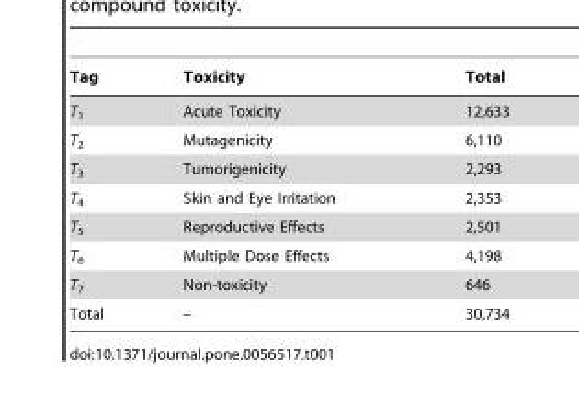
<table><thead><tr><td>Tag</td><td>Toxicity</td><td>Total</td></tr></thead><tbody><tr><td>T<sub>1</sub></td><td>Acute Toxicity</td><td>12,633</td></tr><tr><td>T<sub>2</sub></td><td>Mutagenicity</td><td>6,110</td></tr><tr><td>T<sub>3</sub></td><td>Tumorigenicity</td><td>2,293</td></tr><tr><td>T<sub>4</sub></td><td>Skin and Eye Irritation</td><td>2,353</td></tr><tr><td>T<sub>5</sub></td><td>Reproductive Effects</td><td>2,501</td></tr><tr><td>T<sub>6</sub></td><td>Multiple Dose Effects</td><td>4,198</td></tr><tr><td>T<sub>7</sub></td><td>Non-toxicity</td><td>646</td></tr><tr><td>Total</td><td>–</td><td>30,734</td></tr></tbody></table>